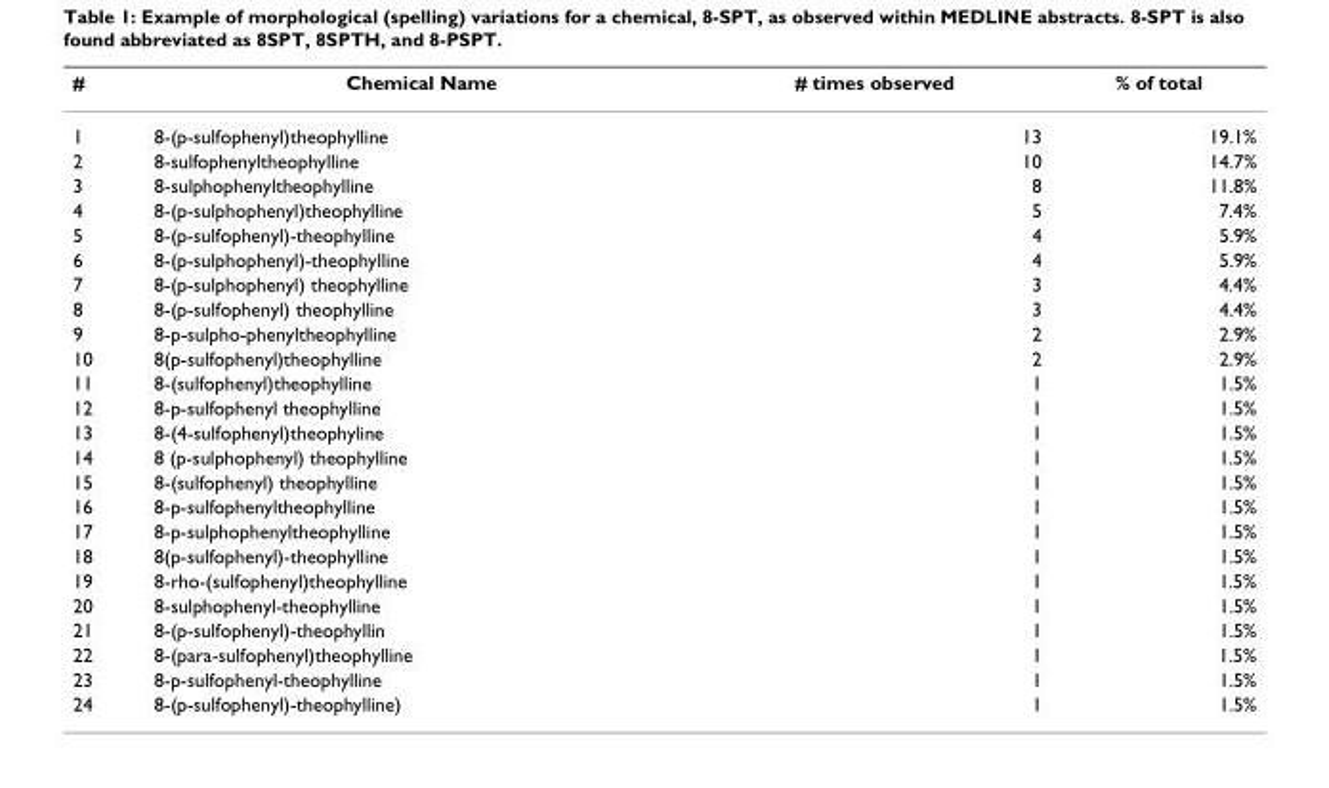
<table><thead><tr><td>#</td><td>Chemical Name</td><td># times observed</td><td>% of total</td></tr></thead><tbody><tr><td>1</td><td>8-(p-sulfophenyl)theophylline</td><td>13</td><td>19.1%</td></tr><tr><td>2</td><td>8-sulfophenyltheophylline</td><td>10</td><td>14.7%</td></tr><tr><td>3</td><td>8-sulphophenyltheophylline</td><td>8</td><td>11.8%</td></tr><tr><td>4</td><td>8-(p-sulphophenyl)theophylline</td><td>5</td><td>7.4%</td></tr><tr><td>5</td><td>8-(p-sulfophenyl)-theophylline</td><td>4</td><td>5.9%</td></tr><tr><td>6</td><td>8-(p-sulphophenyl)-theophylline</td><td>4</td><td>5.9%</td></tr><tr><td>7</td><td>8-(p-sulphophenyl) theophylline</td><td>3</td><td>4.4%</td></tr><tr><td>8</td><td>8-(p-sulfophenyl) theophylline</td><td>3</td><td>4.4%</td></tr><tr><td>9</td><td>8-p-sulpho-phenyltheophylline</td><td>2</td><td>2.9%</td></tr><tr><td>10</td><td>8(p-sulfophenyl)theophylline</td><td>2</td><td>2.9%</td></tr><tr><td>11</td><td>8-(sulfophenyl)theophylline</td><td>1</td><td>1.5%</td></tr><tr><td>12</td><td>8-p-sulfophenyl theophylline</td><td>1</td><td>1.5%</td></tr><tr><td>13</td><td>8-(4-sulfophenyl)theophyline</td><td>1</td><td>1.5%</td></tr><tr><td>14</td><td>8 (p-sulphophenyl) theophylline</td><td>1</td><td>1.5%</td></tr><tr><td>15</td><td>8-(sulfophenyl) theophylline</td><td>1</td><td>1.5%</td></tr><tr><td>16</td><td>8-p-sulfophenyltheophylline</td><td>1</td><td>1.5%</td></tr><tr><td>17</td><td>8-p-sulphophenyltheophylline</td><td>1</td><td>1.5%</td></tr><tr><td>18</td><td>8(p-sulfophenyl)-theophylline</td><td>1</td><td>1.5%</td></tr><tr><td>19</td><td>8-rho-(sulfophenyl)theophylline</td><td>1</td><td>1.5%</td></tr><tr><td>20</td><td>8-sulphophenyl-theophylline</td><td>1</td><td>1.5%</td></tr><tr><td>21</td><td>8-(p-sulfophenyl)-theophyllin</td><td>1</td><td>1.5%</td></tr><tr><td>22</td><td>8-(para-sulfophenyl)theophylline</td><td>1</td><td>1.5%</td></tr><tr><td>23</td><td>8-p-sulfophenyl-theophylline</td><td>1</td><td>1.5%</td></tr><tr><td>24</td><td>8-(p-sulfophenyl)-theophylline)</td><td>1</td><td>1.5%</td></tr></tbody></table>